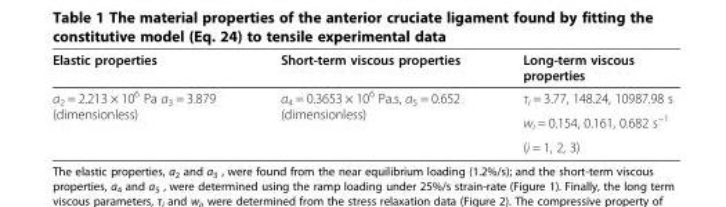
<table><thead><tr><td>Elastic properties</td><td>Short-term viscous properties</td><td>Long-term viscous properties</td></tr></thead><tbody><tr><td rowspan="3">a<sub>2</sub> = 2.213 × 10<sup>6</sup> Pa a<sub>3</sub> = 3.879 (dimensionless)</td><td rowspan="3">a<sub>4</sub> = 0.3653 × 10<sup>6</sup> Pa.s, a<sub>5</sub> = 0.652 (dimensionless)</td><td>τ<sub>i</sub> = 3.77, 148.24, 10987.98 s</td></tr><tr><td>w<sub>i</sub> = 0.154, 0.161, 0.682 s<sup>−1</sup></td></tr><tr><td>(i = 1, 2, 3)</td></tr></tbody></table>